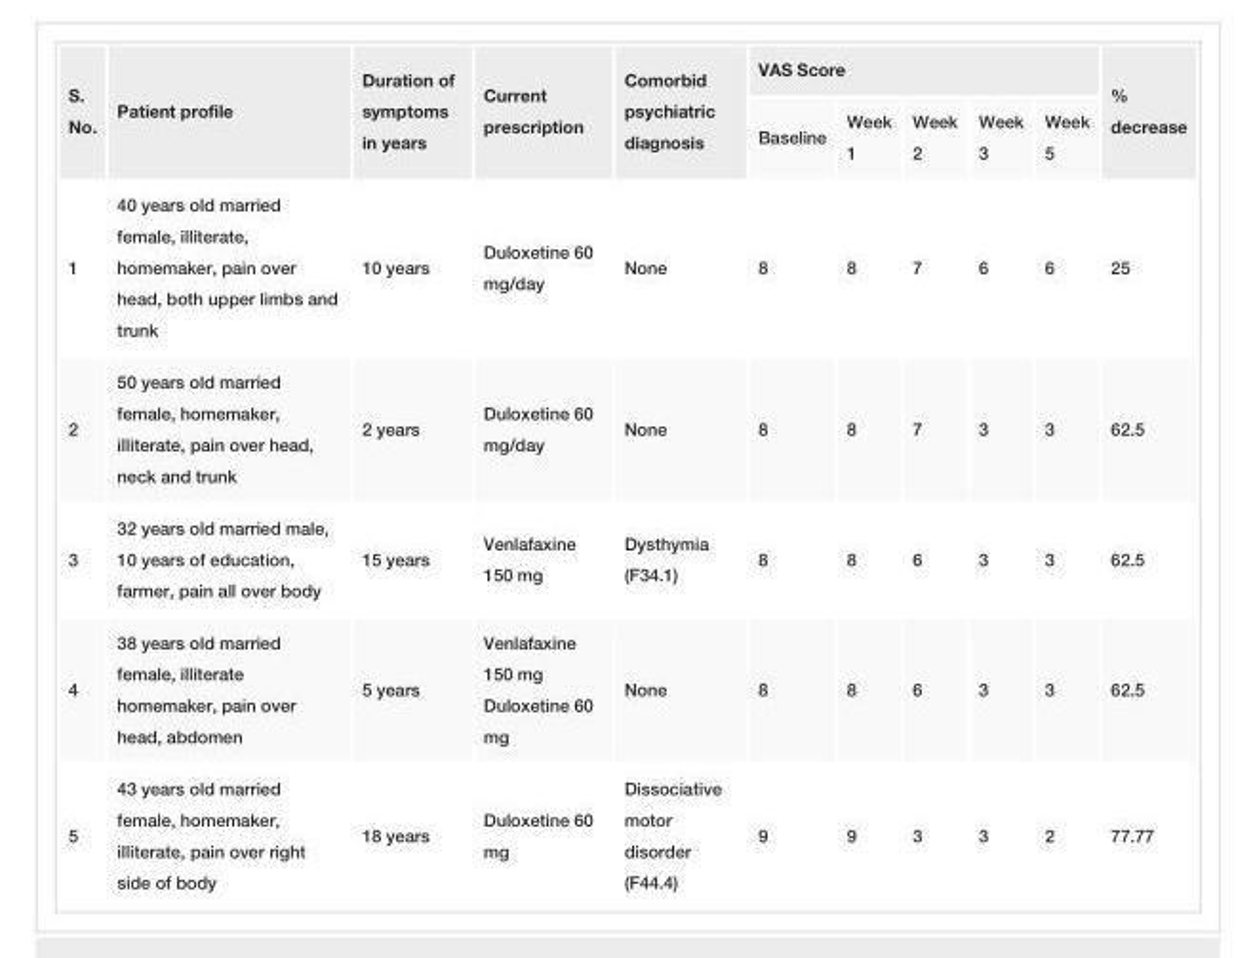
<table><tbody><tr><td rowspan="2">S. No.</td><td rowspan="2">Patient profile</td><td rowspan="2">Duration of symptoms in years</td><td rowspan="2">Current prescription</td><td rowspan="2">Comorbid psychiatric diagnosis</td><td colspan="5">VAS Score</td><td rowspan="2">% decrease</td></tr><tr><td>Baseline</td><td>Week 1</td><td>Week 2</td><td>Week 3</td><td>Week 5</td></tr><tr><td>1</td><td>40 years old married female, illiterate, homemaker, pain over head, both upper limbs and trunk</td><td>10 years</td><td>Duloxetine 60 mg/day</td><td>None</td><td>8</td><td>8</td><td>7</td><td>6</td><td>6</td><td>25</td></tr><tr><td>2</td><td>50 years old married female, homemaker, illiterate, pain over head, neck and trunk</td><td>2 years</td><td>Duloxetine 60 mg/day</td><td>None</td><td>8</td><td>8</td><td>7</td><td>3</td><td>3</td><td>62.5</td></tr><tr><td>3</td><td>32 years old married male, 10 years of education, farmer, pain all over body</td><td>15 years</td><td>Venlafaxine 150 mg</td><td>Dysthymia (F34.1)</td><td>8</td><td>8</td><td>6</td><td>3</td><td>3</td><td>62.5</td></tr><tr><td>4</td><td>38 years old married female, illiterate homemaker, pain over head, abdomen</td><td>5 years</td><td>Venlafaxine 150 mg Duloxetine 60 mg</td><td>None</td><td>8</td><td>8</td><td>6</td><td>3</td><td>3</td><td>62.5</td></tr><tr><td>5</td><td>43 years old married female, homemaker, illiterate, pain over right side of body</td><td>18 years</td><td>Duloxetine 60 mg</td><td>Dissociative motor disorder (F44.4)</td><td>9</td><td>9</td><td>3</td><td>3</td><td>2</td><td>77.77</td></tr></tbody></table>